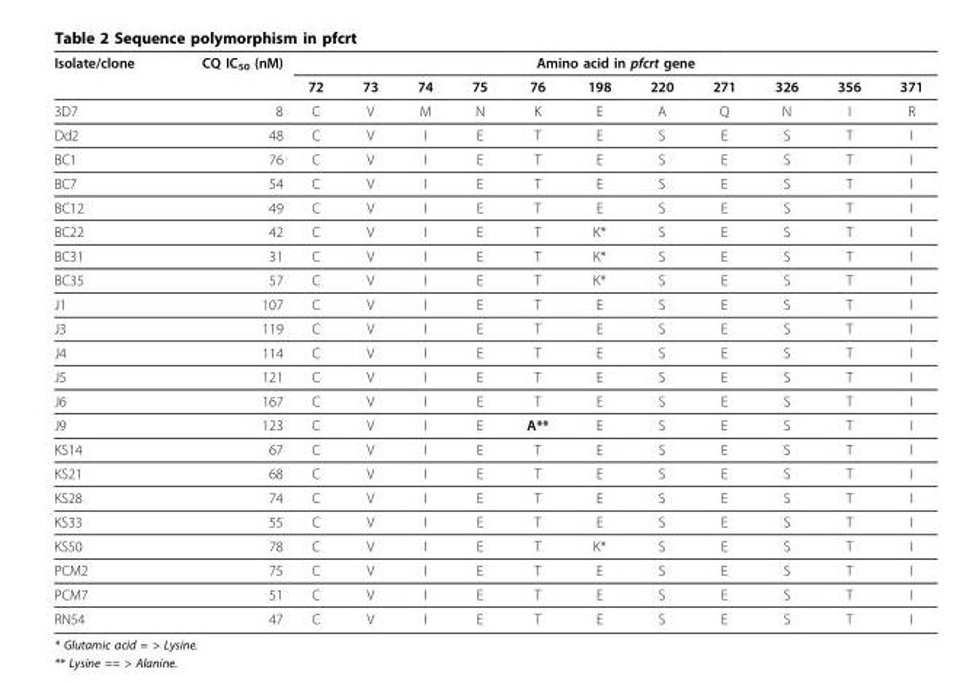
<table><thead><tr><td rowspan="2">Isolate/clone</td><td rowspan="2">CQ IC<sub>50</sub> (nM)</td><td colspan="11">Amino acid in pfcrt gene</td></tr><tr><td>72</td><td>73</td><td>74</td><td>75</td><td>76</td><td>198</td><td>220</td><td>271</td><td>326</td><td>356</td><td>371</td></tr></thead><tbody><tr><td>3D7</td><td>8</td><td>C</td><td>V</td><td>M</td><td>N</td><td>K</td><td>E</td><td>A</td><td>Q</td><td>N</td><td>I</td><td>R</td></tr><tr><td>Dd2</td><td>48</td><td>C</td><td>V</td><td>I</td><td>E</td><td>T</td><td>E</td><td>S</td><td>E</td><td>S</td><td>T</td><td>I</td></tr><tr><td>BC1</td><td>76</td><td>C</td><td>V</td><td>I</td><td>E</td><td>T</td><td>E</td><td>S</td><td>E</td><td>S</td><td>T</td><td>I</td></tr><tr><td>BC7</td><td>54</td><td>C</td><td>V</td><td>I</td><td>E</td><td>T</td><td>E</td><td>S</td><td>E</td><td>S</td><td>T</td><td>I</td></tr><tr><td>BC12</td><td>49</td><td>C</td><td>V</td><td>I</td><td>E</td><td>T</td><td>E</td><td>S</td><td>E</td><td>S</td><td>T</td><td>I</td></tr><tr><td>BC22</td><td>42</td><td>C</td><td>V</td><td>I</td><td>E</td><td>T</td><td>K*</td><td>S</td><td>E</td><td>S</td><td>T</td><td>I</td></tr><tr><td>BC31</td><td>31</td><td>C</td><td>V</td><td>I</td><td>E</td><td>T</td><td>K*</td><td>S</td><td>E</td><td>S</td><td>T</td><td>I</td></tr><tr><td>BC35</td><td>57</td><td>C</td><td>V</td><td>I</td><td>E</td><td>T</td><td>K*</td><td>S</td><td>E</td><td>S</td><td>T</td><td>I</td></tr><tr><td>J1</td><td>107</td><td>C</td><td>V</td><td>I</td><td>E</td><td>T</td><td>E</td><td>S</td><td>E</td><td>S</td><td>T</td><td>I</td></tr><tr><td>J3</td><td>119</td><td>C</td><td>V</td><td>I</td><td>E</td><td>T</td><td>E</td><td>S</td><td>E</td><td>S</td><td>T</td><td>I</td></tr><tr><td>J4</td><td>114</td><td>C</td><td>V</td><td>I</td><td>E</td><td>T</td><td>E</td><td>S</td><td>E</td><td>S</td><td>T</td><td>I</td></tr><tr><td>J5</td><td>121</td><td>C</td><td>V</td><td>I</td><td>E</td><td>T</td><td>E</td><td>S</td><td>E</td><td>S</td><td>T</td><td>I</td></tr><tr><td>J6</td><td>167</td><td>C</td><td>V</td><td>I</td><td>E</td><td>T</td><td>E</td><td>S</td><td>E</td><td>S</td><td>T</td><td>I</td></tr><tr><td>J9</td><td>123</td><td>C</td><td>V</td><td>I</td><td>E</td><td>A**</td><td>E</td><td>S</td><td>E</td><td>S</td><td>T</td><td>I</td></tr><tr><td>KS14</td><td>67</td><td>C</td><td>V</td><td>I</td><td>E</td><td>T</td><td>E</td><td>S</td><td>E</td><td>S</td><td>T</td><td>I</td></tr><tr><td>KS21</td><td>68</td><td>C</td><td>V</td><td>I</td><td>E</td><td>T</td><td>E</td><td>S</td><td>E</td><td>S</td><td>T</td><td>I</td></tr><tr><td>KS28</td><td>74</td><td>C</td><td>V</td><td>I</td><td>E</td><td>T</td><td>E</td><td>S</td><td>E</td><td>S</td><td>T</td><td>I</td></tr><tr><td>KS33</td><td>55</td><td>C</td><td>V</td><td>I</td><td>E</td><td>T</td><td>E</td><td>S</td><td>E</td><td>S</td><td>T</td><td>I</td></tr><tr><td>KS50</td><td>78</td><td>C</td><td>V</td><td>I</td><td>E</td><td>T</td><td>K*</td><td>S</td><td>E</td><td>S</td><td>T</td><td>I</td></tr><tr><td>PCM2</td><td>75</td><td>C</td><td>V</td><td>I</td><td>E</td><td>T</td><td>E</td><td>S</td><td>E</td><td>S</td><td>T</td><td>I</td></tr><tr><td>PCM7</td><td>51</td><td>C</td><td>V</td><td>I</td><td>E</td><td>T</td><td>E</td><td>S</td><td>E</td><td>S</td><td>T</td><td>I</td></tr><tr><td>RN54</td><td>47</td><td>C</td><td>V</td><td>I</td><td>E</td><td>T</td><td>E</td><td>S</td><td>E</td><td>S</td><td>T</td><td>I</td></tr></tbody></table>